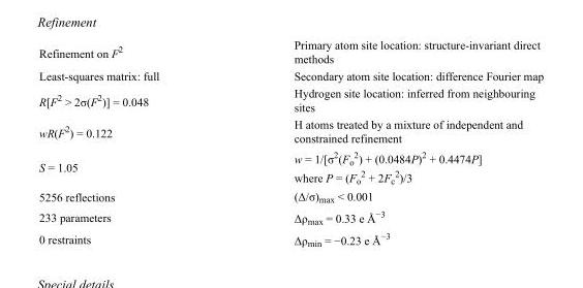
<table><tbody><tr><td>Refinement on F<sup>2</sup></td><td>Primary atom site location: structure-invariant direct methods</td></tr><tr><td>Least-squares matrix: full</td><td>Secondary atom site location: difference Fourier map</td></tr><tr><td>R[F<sup>2</sup> &gt; 2σ(F<sup>2</sup>)] = 0.048</td><td>Hydrogen site location: inferred from neighbouring sites</td></tr><tr><td>wR(F<sup>2</sup>) = 0.122</td><td>H atoms treated by a mixture of independent and constrained refinement</td></tr><tr><td>S = 1.05</td><td>w = 1/[σ<sup>2</sup>(F<sub>o</sub> <sup>2</sup>) + (0.0484P)<sup>2</sup> + 0.4474P] where P = (F<sub>o</sub> <sup>2</sup> + 2F<sub>c</sub> <sup>2</sup>)/3</td></tr><tr><td>5256 reflections</td><td>(Δ/σ)<sub>max</sub> &lt; 0.001</td></tr><tr><td>233 parameters</td><td>Δρ<sub>max</sub> = 0.33 e Å<sup>−3</sup></td></tr><tr><td>0 restraints</td><td>Δρ<sub>min</sub> = −0.23 e Å<sup>−3</sup></td></tr></tbody></table>